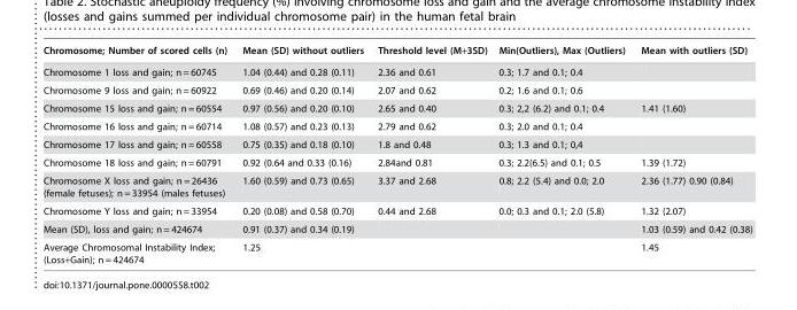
<table><thead><tr><td>Chromosome; Number of scored cells (n)</td><td>Mean (SD) without outliers</td><td>Threshold level (M+3SD)</td><td>Min(Outliers), Max (Outliers)</td><td>Mean with outliers (SD)</td></tr></thead><tbody><tr><td>Chromosome 1 loss and gain; n = 60745</td><td>1.04 (0.44) and 0.28 (0.11)</td><td>2.36 and 0.61</td><td>0.3; 1.7 and 0.1; 0.4</td><td></td></tr><tr><td>Chromosome 9 loss and gain; n = 60922</td><td>0.69 (0.46) and 0.20 (0.14)</td><td>2.07 and 0.62</td><td>0.2; 1.6 and 0.1; 0.6</td><td></td></tr><tr><td>Chromosome 15 loss and gain; n = 60554</td><td>0.97 (0.56) and 0.20 (0.10)</td><td>2.65 and 0.40</td><td>0.3; 2,2 (6.2) and 0.1; 0.4</td><td>1.41 (1.60)</td></tr><tr><td>Chromosome 16 loss and gain; n = 60714</td><td>1.08 (0.57) and 0.23 (0.13)</td><td>2.79 and 0.62</td><td>0.3; 2.0 and 0.1; 0.4</td><td></td></tr><tr><td>Chromosome 17 loss and gain; n = 60558</td><td>0.75 (0.35) and 0.18 (0.10)</td><td>1.8 and 0.48</td><td>0.3; 1.3 and 0.1; 0,4</td><td></td></tr><tr><td>Chromosome 18 loss and gain; n = 60791</td><td>0.92 (0.64 and 0.33 (0.16)</td><td>2.84and 0.81</td><td>0.3; 2.2(6.5) and 0.1; 0.5</td><td>1.39 (1.72)</td></tr><tr><td>Chromosome X loss and gain; n = 26436 (female fetuses); n = 33954 (males fetuses)</td><td>1.60 (0.59) and 0.73 (0.65)</td><td>3.37 and 2.68</td><td>0.8; 2.2 (5.4) and 0.0; 2.0</td><td>2.36 (1.77) 0.90 (0.84)</td></tr><tr><td>Chromosome Y loss and gain; n = 33954</td><td>0.20 (0.08) and 0.58 (0.70)</td><td>0.44 and 2.68</td><td>0.0; 0.3 and 0.1; 2.0 (5.8)</td><td>1.32 (2.07)</td></tr><tr><td>Mean (SD), loss and gain; n = 424674</td><td>0.91 (0.37) and 0.34 (0.19)</td><td></td><td></td><td>1.03 (0.59) and 0.42 (0.38)</td></tr><tr><td>Average Chromosomal Instability Index; (Loss+Gain); n = 424674</td><td>1.25</td><td></td><td></td><td>1.45</td></tr></tbody></table>